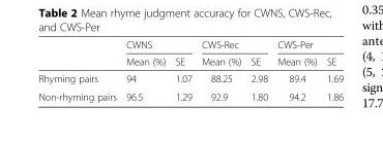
<table><thead><tr><td rowspan="2"></td><td colspan="2">CWNS</td><td colspan="2">CWS-Rec</td><td colspan="2">CWS-Per</td></tr><tr><td>Mean (%)</td><td>SE</td><td>Mean (%)</td><td>SE</td><td>Mean (%)</td><td>SE</td></tr></thead><tbody><tr><td>Rhyming pairs</td><td>94</td><td>1.07</td><td>88.25</td><td>2.98</td><td>89.4</td><td>1.69</td></tr><tr><td>Non-rhyming pairs</td><td>96.5</td><td>1.29</td><td>92.9</td><td>1.80</td><td>94.2</td><td>1.86</td></tr></tbody></table>